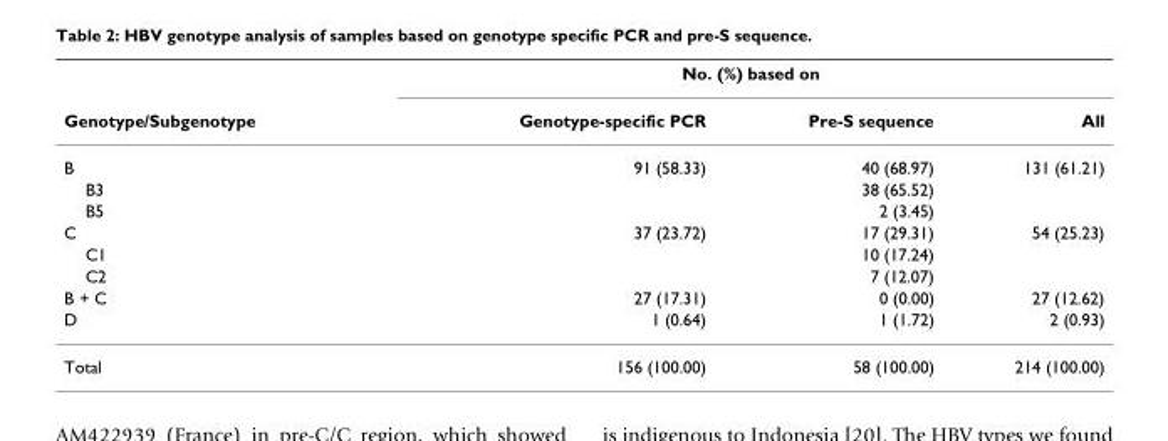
<table><thead><tr><td rowspan="2">Genotype/Subgenotype</td><td colspan="3">No. (%) based on</td></tr><tr><td>Genotype-specific PCR</td><td>Pre-S sequence</td><td>All</td></tr></thead><tbody><tr><td>B</td><td>91 (58.33)</td><td>40 (68.97)</td><td>131 (61.21)</td></tr><tr><td>B3</td><td></td><td>38 (65.52)</td><td></td></tr><tr><td>B5</td><td></td><td>2 (3.45)</td><td></td></tr><tr><td>C</td><td>37 (23.72)</td><td>17 (29.31)</td><td>54 (25.23)</td></tr><tr><td>C1</td><td></td><td>10 (17.24)</td><td></td></tr><tr><td>C2</td><td></td><td>7 (12.07)</td><td></td></tr><tr><td>B + C</td><td>27 (17.31)</td><td>0 (0.00)</td><td>27 (12.62)</td></tr><tr><td>D</td><td>1 (0.64)</td><td>1 (1.72)</td><td>2 (0.93)</td></tr><tr><td>Total</td><td>156 (100.00)</td><td>58 (100.00)</td><td>214 (100.00)</td></tr></tbody></table>